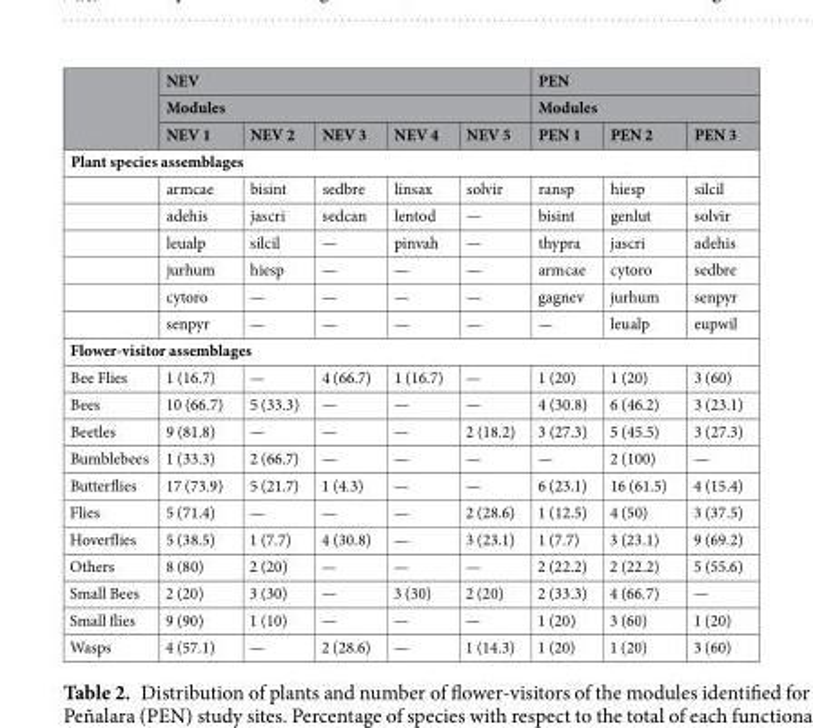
<table><thead><tr><td rowspan="3"></td><td rowspan="2" colspan="5">NEV Modules</td><td rowspan="2" colspan="3">PEN Modules</td></tr><tr></tr><tr><td>NEV 1</td><td>NEV 2</td><td>NEV 3</td><td>NEV 4</td><td>NEV 5</td><td>PEN 1</td><td>PEN 2</td><td>PEN 3</td></tr></thead><tbody><tr><td colspan="9">Plant species assemblages</td></tr><tr><td></td><td>armcae</td><td>bisint</td><td>sedbre</td><td>linsax</td><td>solvir</td><td>ransp</td><td>hiesp</td><td>silcil</td></tr><tr><td></td><td>adehis</td><td>jascri</td><td>sedcan</td><td>lentod</td><td>—</td><td>bisint</td><td>genlut</td><td>solvir</td></tr><tr><td></td><td>leualp</td><td>silcil</td><td>—</td><td>pinvah</td><td>—</td><td>thypra</td><td>jascri</td><td>adehis</td></tr><tr><td></td><td>jurhum</td><td>hiesp</td><td>—</td><td>—</td><td>—</td><td>armcae</td><td>cytoro</td><td>sedbre</td></tr><tr><td></td><td>cytoro</td><td>—</td><td>—</td><td>—</td><td>—</td><td>gagnev</td><td>jurhum</td><td>senpyr</td></tr><tr><td></td><td>senpyr</td><td>—</td><td>—</td><td>—</td><td>—</td><td>—</td><td>leualp</td><td>eupwil</td></tr><tr><td colspan="9">Flower-visitor assemblages</td></tr><tr><td>Bee Flies</td><td>1 (16.7)</td><td>—</td><td>4 (66.7)</td><td>1 (16.7)</td><td>—</td><td>1 (20)</td><td>1 (20)</td><td>3 (60)</td></tr><tr><td>Bees</td><td>10 (66.7)</td><td>5 (33.3)</td><td>—</td><td>—</td><td>—</td><td>4 (30.8)</td><td>6 (46.2)</td><td>3 (23.1)</td></tr><tr><td>Beetles</td><td>9 (81.8)</td><td>—</td><td>—</td><td>—</td><td>2 (18.2)</td><td>3 (27.3)</td><td>5 (45.5)</td><td>3 (27.3)</td></tr><tr><td>Bumblebees</td><td>1 (33.3)</td><td>2 (66.7)</td><td>—</td><td>—</td><td>—</td><td>—</td><td>2 (100)</td><td>—</td></tr><tr><td>Butterflies</td><td>17 (73.9)</td><td>5 (21.7)</td><td>1 (4.3)</td><td>—</td><td>—</td><td>6 (23.1)</td><td>16 (61.5)</td><td>4 (15.4)</td></tr><tr><td>Flies</td><td>5 (71.4)</td><td>—</td><td>—</td><td>—</td><td>2 (28.6)</td><td>1 (12.5)</td><td>4 (50)</td><td>3 (37.5)</td></tr><tr><td>Hoverflies</td><td>5 (38.5)</td><td>1 (7.7)</td><td>4 (30.8)</td><td>—</td><td>3 (23.1)</td><td>1 (7.7)</td><td>3 (23.1)</td><td>9 (69.2)</td></tr><tr><td>Others</td><td>8 (80)</td><td>2 (20)</td><td>—</td><td>—</td><td>—</td><td>2 (22.2)</td><td>2 (22.2)</td><td>5 (55.6)</td></tr><tr><td>Small Bees</td><td>2 (20)</td><td>3 (30)</td><td>—</td><td>3 (30)</td><td>2 (20)</td><td>2 (33.3)</td><td>4 (66.7)</td><td>—</td></tr><tr><td>Small flies</td><td>9 (90)</td><td>1 (10)</td><td>—</td><td>—</td><td>—</td><td>1 (20)</td><td>3 (60)</td><td>1 (20)</td></tr><tr><td>Wasps</td><td>4 (57.1)</td><td>—</td><td>2 (28.6)</td><td>—</td><td>1 (14.3)</td><td>1 (20)</td><td>1 (20)</td><td>3 (60)</td></tr></tbody></table>